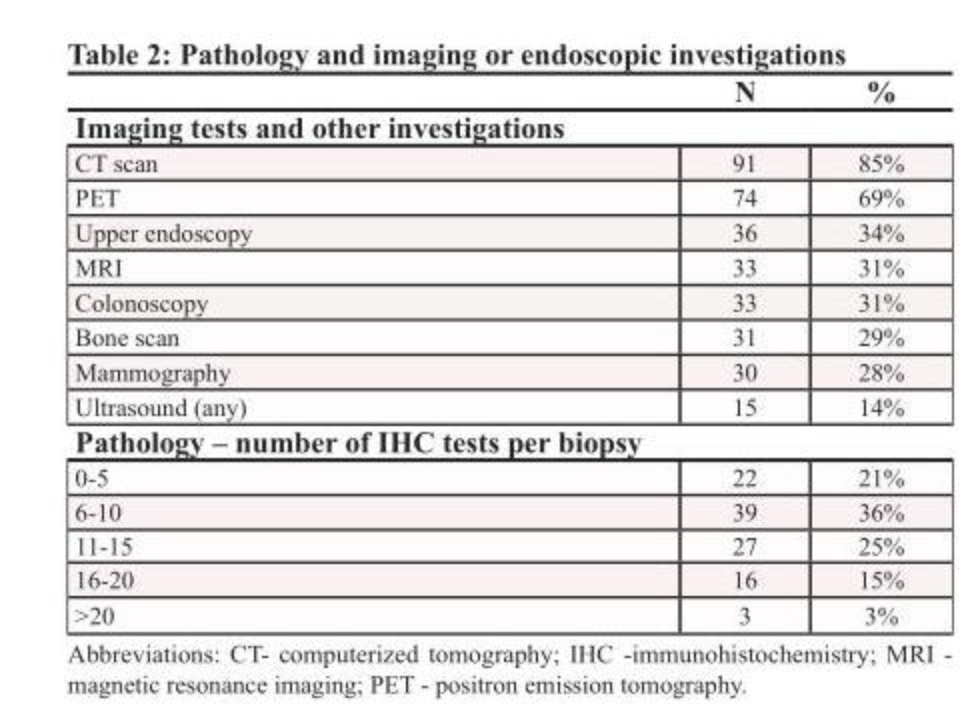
<table><thead><tr><td></td><td>N</td><td>%</td></tr></thead><tbody><tr><td colspan="3">Imaging tests and other investigations</td></tr><tr><td>CT scan</td><td>91</td><td>85%</td></tr><tr><td>PET</td><td>74</td><td>69%</td></tr><tr><td>Upper endoscopy</td><td>36</td><td>34%</td></tr><tr><td>MRI</td><td>33</td><td>31%</td></tr><tr><td>Colonoscopy</td><td>33</td><td>31%</td></tr><tr><td>Bone scan</td><td>31</td><td>29%</td></tr><tr><td>Mammography</td><td>30</td><td>28%</td></tr><tr><td>Ultrasound (any)</td><td>15</td><td>14%</td></tr><tr><td colspan="3">Pathology – number of IHC tests per biopsy</td></tr><tr><td>0-5</td><td>22</td><td>21%</td></tr><tr><td>6-10</td><td>39</td><td>36%</td></tr><tr><td>11-15</td><td>27</td><td>25%</td></tr><tr><td>16-20</td><td>16</td><td>15%</td></tr><tr><td>&gt;20</td><td>3</td><td>3%</td></tr></tbody></table>